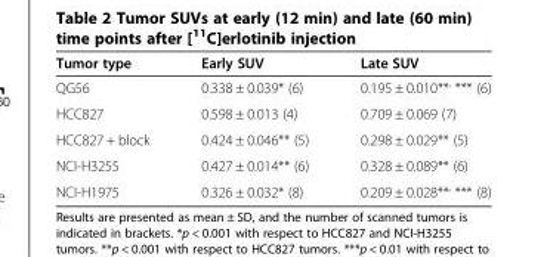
<table><thead><tr><td>Tumor type</td><td>Early SUV</td><td>Late SUV</td></tr></thead><tbody><tr><td>QG56</td><td>0.338 ± 0.039* (6)</td><td>0.195 ± 0.010**<sup>,</sup> *** (6)</td></tr><tr><td>HCC827</td><td>0.598 ± 0.013 (4)</td><td>0.709 ± 0.069 (7)</td></tr><tr><td>HCC827 + block</td><td>0.424 ± 0.046** (5)</td><td>0.298 ± 0.029** (5)</td></tr><tr><td>NCI-H3255</td><td>0.427 ± 0.014** (6)</td><td>0.328 ± 0.089** (6)</td></tr><tr><td>NCI-H1975</td><td>0.326 ± 0.032* (8)</td><td>0.209 ± 0.028**<sup>,</sup> *** (8)</td></tr></tbody></table>